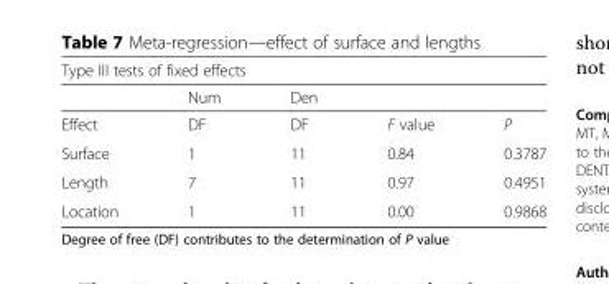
<table><thead><tr><td colspan="5">Type III tests of fixed effects</td></tr><tr><td></td><td>Num</td><td>Den</td><td></td><td></td></tr></thead><tbody><tr><td>Effect</td><td>DF</td><td>DF</td><td>F value</td><td>P</td></tr><tr><td>Surface</td><td>1</td><td>11</td><td>0.84</td><td>0.3787</td></tr><tr><td>Length</td><td>7</td><td>11</td><td>0.97</td><td>0.4951</td></tr><tr><td>Location</td><td>1</td><td>11</td><td>0.00</td><td>0.9868</td></tr></tbody></table>